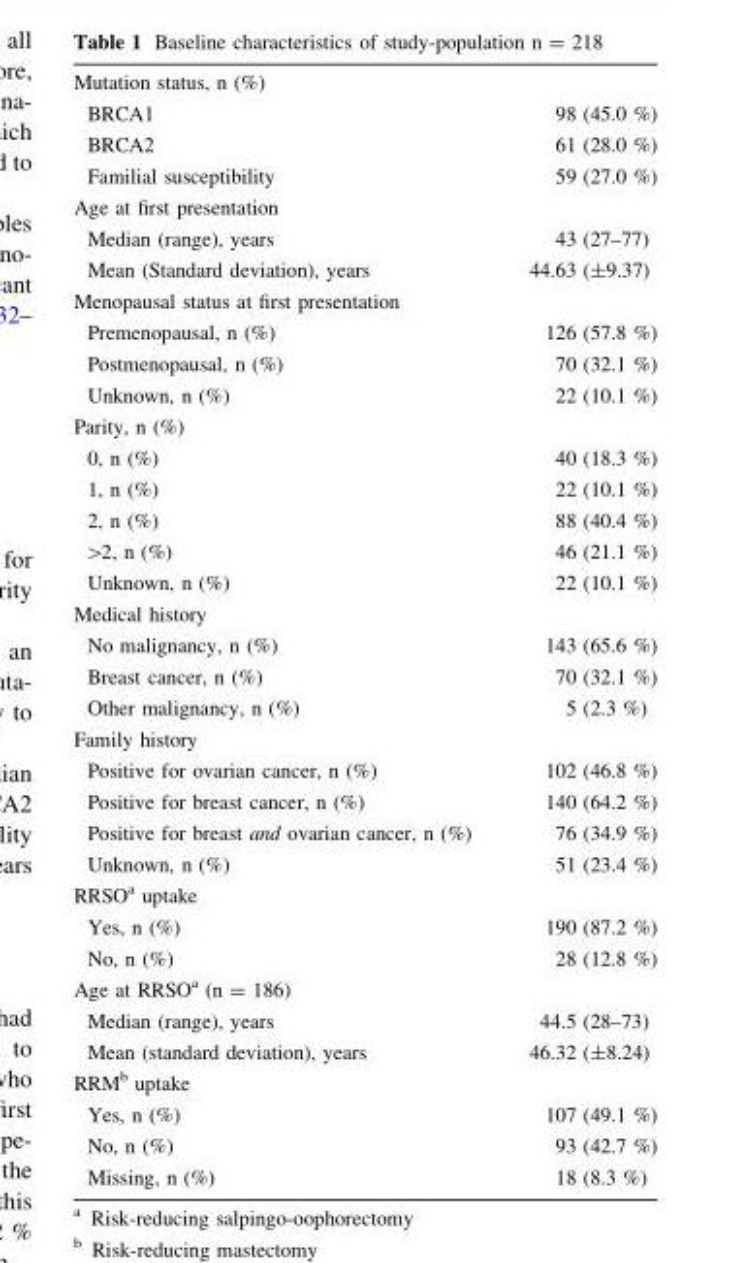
<table><tbody><tr><td colspan="2">Mutation status, n (%)</td></tr><tr><td>BRCA1</td><td>98 (45.0 %)</td></tr><tr><td>BRCA2</td><td>61 (28.0 %)</td></tr><tr><td>Familial susceptibility</td><td>59 (27.0 %)</td></tr><tr><td colspan="2">Age at first presentation</td></tr><tr><td>Median (range), years</td><td>43 (27–77)</td></tr><tr><td>Mean (Standard deviation), years</td><td>44.63 (±9.37)</td></tr><tr><td colspan="2">Menopausal status at first presentation</td></tr><tr><td>Premenopausal, n (%)</td><td>126 (57.8 %)</td></tr><tr><td>Postmenopausal, n (%)</td><td>70 (32.1 %)</td></tr><tr><td>Unknown, n (%)</td><td>22 (10.1 %)</td></tr><tr><td colspan="2">Parity, n (%)</td></tr><tr><td>0, n (%)</td><td>40 (18.3 %)</td></tr><tr><td>1, n (%)</td><td>22 (10.1 %)</td></tr><tr><td>2, n (%)</td><td>88 (40.4 %)</td></tr><tr><td>&gt;2, n (%)</td><td>46 (21.1 %)</td></tr><tr><td>Unknown, n (%)</td><td>22 (10.1 %)</td></tr><tr><td colspan="2">Medical history</td></tr><tr><td>No malignancy, n (%)</td><td>143 (65.6 %)</td></tr><tr><td>Breast cancer, n (%)</td><td>70 (32.1 %)</td></tr><tr><td>Other malignancy, n (%)</td><td>5 (2.3 %)</td></tr><tr><td colspan="2">Family history</td></tr><tr><td>Positive for ovarian cancer, n (%)</td><td>102 (46.8 %)</td></tr><tr><td>Positive for breast cancer, n (%)</td><td>140 (64.2 %)</td></tr><tr><td>Positive for breast and ovarian cancer, n (%)</td><td>76 (34.9 %)</td></tr><tr><td>Unknown, n (%)</td><td>51 (23.4 %)</td></tr><tr><td colspan="2">RRSO<sup>a</sup> uptake</td></tr><tr><td>Yes, n (%)</td><td>190 (87.2 %)</td></tr><tr><td>No, n (%)</td><td>28 (12.8 %)</td></tr><tr><td colspan="2">Age at RRSO<sup>a</sup> (n = 186)</td></tr><tr><td>Median (range), years</td><td>44.5 (28–73)</td></tr><tr><td>Mean (standard deviation), years</td><td>46.32 (±8.24)</td></tr><tr><td colspan="2">RRM<sup>b</sup> uptake</td></tr><tr><td>Yes, n (%)</td><td>107 (49.1 %)</td></tr><tr><td>No, n (%)</td><td>93 (42.7 %)</td></tr><tr><td>Missing, n (%)</td><td>18 (8.3 %)</td></tr></tbody></table>